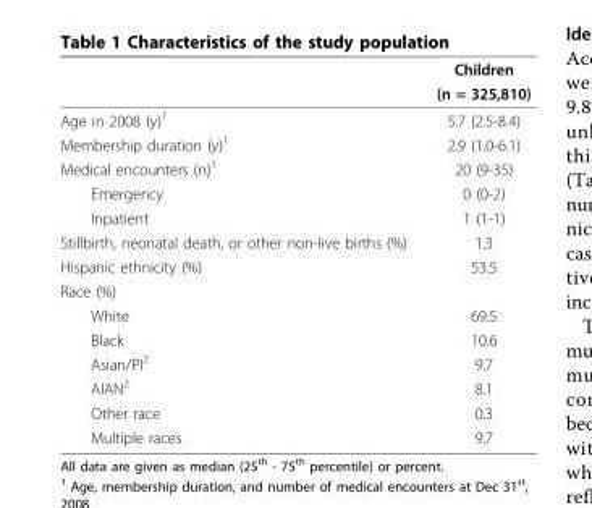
<table><thead><tr><td rowspan="2"></td><td rowspan="2">Children (n = 325,810)</td></tr><tr></tr></thead><tbody><tr><td>Age in 2008 (y)<sup>1</sup></td><td>5.7 (2.5-8.4)</td></tr><tr><td>Membership duration (y)<sup>1</sup></td><td>2.9 (1.0-6.1)</td></tr><tr><td>Medical encounters (n)<sup>1</sup></td><td>20 (9-35)</td></tr><tr><td>Emergency</td><td>0 (0-2)</td></tr><tr><td>Inpatient</td><td>1 (1-1)</td></tr><tr><td>Stillbirth, neonatal death, or other non-live births (%)</td><td>1.3</td></tr><tr><td>Hispanic ethnicity (%)</td><td>53.5</td></tr><tr><td colspan="2">Race (%)</td></tr><tr><td>White</td><td>69.5</td></tr><tr><td>Black</td><td>10.6</td></tr><tr><td>Asian/PI<sup>2</sup></td><td>9.7</td></tr><tr><td>AIAN<sup>2</sup></td><td>8.1</td></tr><tr><td>Other race</td><td>0.3</td></tr><tr><td>Multiple races</td><td>9.7</td></tr></tbody></table>